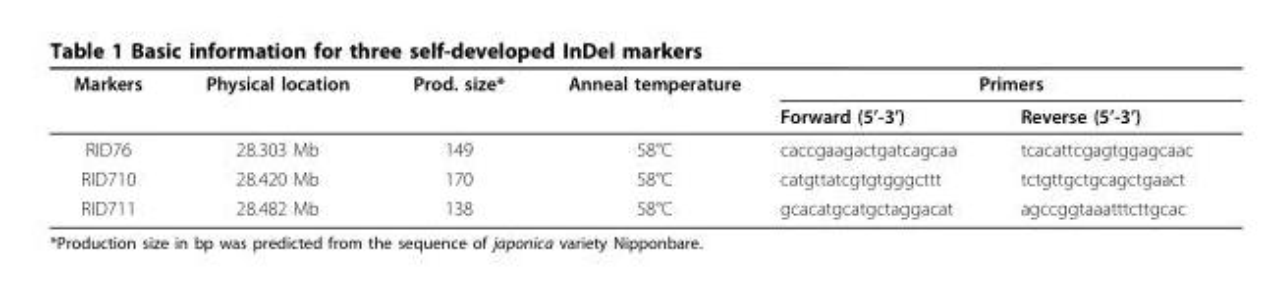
<table><thead><tr><td rowspan="2">Markers</td><td rowspan="2">Physical location</td><td rowspan="2">Prod. size*</td><td rowspan="2">Anneal temperature</td><td colspan="2">Primers</td></tr><tr><td>Forward (5’-3’)</td><td>Reverse (5’-3’)</td></tr></thead><tbody><tr><td>RID76</td><td>28.303 Mb</td><td>149</td><td>58°C</td><td>caccgaagactgatcagcaa</td><td>tcacattcgagtggagcaac</td></tr><tr><td>RID710</td><td>28.420 Mb</td><td>170</td><td>58°C</td><td>catgttatcgtgtgggcttt</td><td>tctgttgctgcagctgaact</td></tr><tr><td>RID711</td><td>28.482 Mb</td><td>138</td><td>58°C</td><td>gcacatgcatgctaggacat</td><td>agccggtaaatttcttgcac</td></tr></tbody></table>